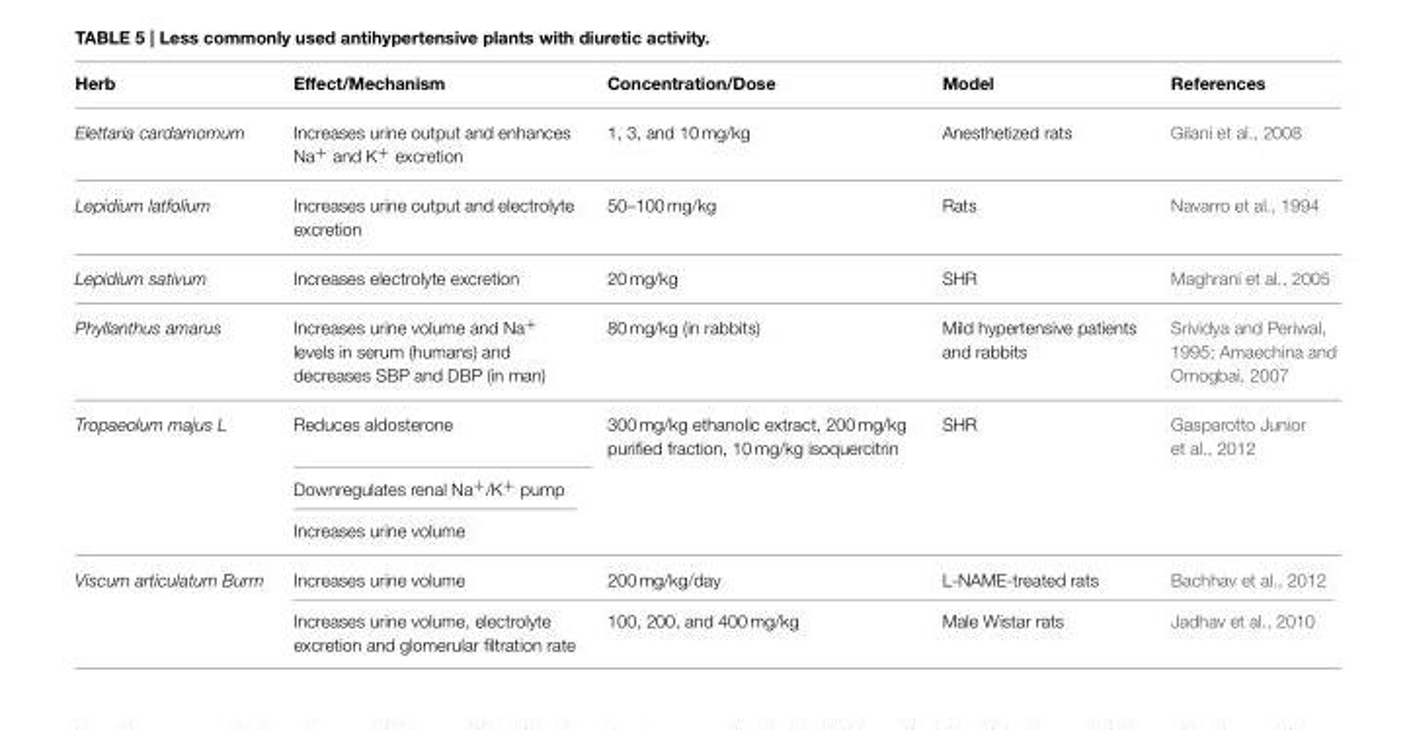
<table><thead><tr><td>Herb</td><td>Effect/Mechanism</td><td>Concentration/Dose</td><td>Model</td><td>References</td></tr></thead><tbody><tr><td>Elettaria cardamomum</td><td>Increases urine output and enhances Na<sup>+</sup> and K<sup>+</sup> excretion</td><td>1, 3, and 10 mg/kg</td><td>Anesthetized rats</td><td>Gilani et al., 2008</td></tr><tr><td>Lepidium latfolium</td><td>Increases urine output and electrolyte excretion</td><td>50–100 mg/kg</td><td>Rats</td><td>Navarro et al., 1994</td></tr><tr><td>Lepidium sativum</td><td>Increases electrolyte excretion</td><td>20 mg/kg</td><td>SHR</td><td>Maghrani et al., 2005</td></tr><tr><td>Phyllanthus amarus</td><td>Increases urine volume and Na<sup>+</sup> levels in serum (humans) and decreases SBP and DBP (in man)</td><td>80 mg/kg (in rabbits)</td><td>Mild hypertensive patients and rabbits</td><td>Srividya and Periwal, 1995; Amaechina and Omogbai, 2007</td></tr><tr><td rowspan="3">Tropaeolum majus L</td><td>Reduces aldosterone</td><td>300 mg/kg ethanolic extract, 200 mg/kg purified fraction, 10 mg/kg isoquercitrin</td><td>SHR</td><td>Gasparotto Junior et al., 2012</td></tr><tr><td>Downregulates renal Na<sup>+</sup>/K<sup>+</sup> pump</td><td></td><td></td><td></td></tr><tr><td>Increases urine volume</td><td></td><td></td><td></td></tr><tr><td rowspan="2">Viscum articulatum Burm</td><td>Increases urine volume</td><td>200 mg/kg/day</td><td>L-NAME-treated rats</td><td>Bachhav et al., 2012</td></tr><tr><td>Increases urine volume, electrolyte excretion and glomerular filtration rate</td><td>100, 200, and 400 mg/kg</td><td>Male Wistar rats</td><td>Jadhav et al., 2010</td></tr></tbody></table>